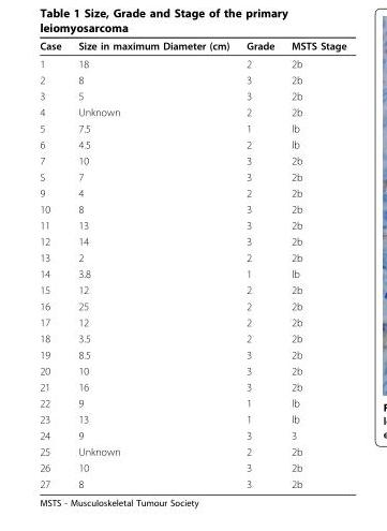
<table><thead><tr><td>Case</td><td>Size in maximum Diameter (cm)</td><td>Grade</td><td>MSTS Stage</td></tr></thead><tbody><tr><td>1</td><td>18</td><td>2</td><td>2b</td></tr><tr><td>2</td><td>8</td><td>3</td><td>2b</td></tr><tr><td>3</td><td>5</td><td>3</td><td>2b</td></tr><tr><td>4</td><td>Unknown</td><td>2</td><td>2b</td></tr><tr><td>5</td><td>7.5</td><td>1</td><td>lb</td></tr><tr><td>6</td><td>4.5</td><td>2</td><td>lb</td></tr><tr><td>7</td><td>10</td><td>3</td><td>2b</td></tr><tr><td>S</td><td>7</td><td>3</td><td>2b</td></tr><tr><td>9</td><td>4</td><td>2</td><td>2b</td></tr><tr><td>10</td><td>8</td><td>3</td><td>2b</td></tr><tr><td>11</td><td>13</td><td>3</td><td>2b</td></tr><tr><td>12</td><td>14</td><td>3</td><td>2b</td></tr><tr><td>13</td><td>2</td><td>2</td><td>2b</td></tr><tr><td>14</td><td>3.8</td><td>1</td><td>lb</td></tr><tr><td>15</td><td>12</td><td>2</td><td>2b</td></tr><tr><td>16</td><td>25</td><td>2</td><td>2b</td></tr><tr><td>17</td><td>12</td><td>2</td><td>2b</td></tr><tr><td>18</td><td>3.5</td><td>2</td><td>2b</td></tr><tr><td>19</td><td>8.5</td><td>3</td><td>2b</td></tr><tr><td>20</td><td>10</td><td>3</td><td>2b</td></tr><tr><td>21</td><td>16</td><td>3</td><td>2b</td></tr><tr><td>22</td><td>9</td><td>1</td><td>lb</td></tr><tr><td>23</td><td>13</td><td>1</td><td>lb</td></tr><tr><td>24</td><td>9</td><td>3</td><td>3</td></tr><tr><td>25</td><td>Unknown</td><td>2</td><td>2b</td></tr><tr><td>26</td><td>10</td><td>3</td><td>2b</td></tr><tr><td>27</td><td>8</td><td>3</td><td>2b</td></tr></tbody></table>